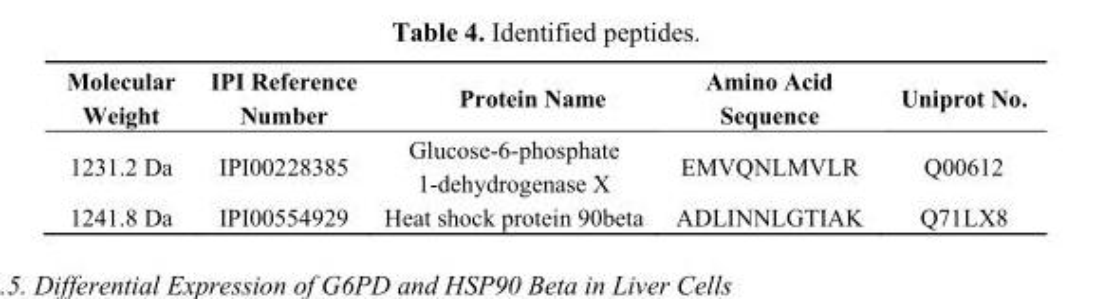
<table><thead><tr><td>Molecular Weight</td><td>IPI Reference Number</td><td>Protein Name</td><td>Amino Acid Sequence</td><td>Uniprot No.</td></tr></thead><tbody><tr><td>1231.2 Da</td><td>IPI00228385</td><td>Glucose-6-phosphate 1-dehydrogenase X</td><td>EMVQNLMVLR</td><td>Q00612</td></tr><tr><td>1241.8 Da</td><td>IPI00554929</td><td>Heat shock protein 90beta</td><td>ADLINNLGTIAK</td><td>Q71LX8</td></tr></tbody></table>